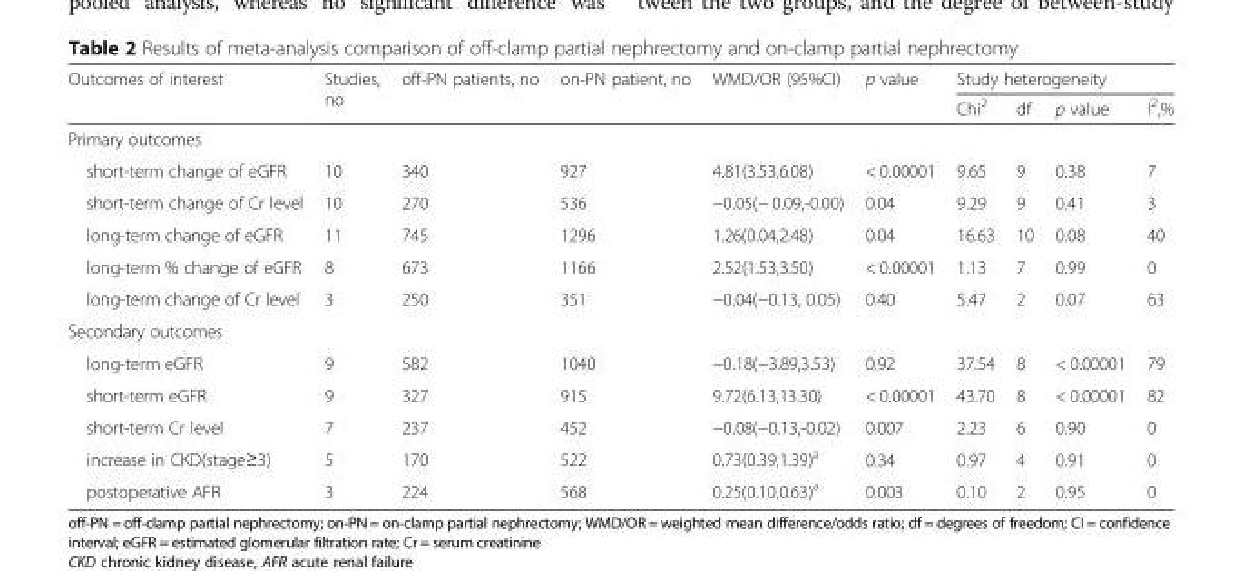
<table><thead><tr><td rowspan="2">Outcomes of interest</td><td rowspan="2">Studies, no</td><td rowspan="2">off-PN patients, no</td><td rowspan="2">on-PN patient, no</td><td rowspan="2">WMD/OR (95%CI)</td><td rowspan="2">p value</td><td colspan="4">Study heterogeneity</td></tr><tr><td>Chi<sup>2</sup></td><td>df</td><td>p value</td><td>I<sup>2</sup>,%</td></tr></thead><tbody><tr><td colspan="10">Primary outcomes</td></tr><tr><td>short-term change of eGFR</td><td>10</td><td>340</td><td>927</td><td>4.81(3.53,6.08)</td><td>&lt; 0.00001</td><td>9.65</td><td>9</td><td>0.38</td><td>7</td></tr><tr><td>short-term change of Cr level</td><td>10</td><td>270</td><td>536</td><td>−0.05(− 0.09,-0.00)</td><td>0.04</td><td>9.29</td><td>9</td><td>0.41</td><td>3</td></tr><tr><td>long-term change of eGFR</td><td>11</td><td>745</td><td>1296</td><td>1.26(0.04,2.48)</td><td>0.04</td><td>16.63</td><td>10</td><td>0.08</td><td>40</td></tr><tr><td>long-term % change of eGFR</td><td>8</td><td>673</td><td>1166</td><td>2.52(1.53,3.50)</td><td>&lt; 0.00001</td><td>1.13</td><td>7</td><td>0.99</td><td>0</td></tr><tr><td>long-term change of Cr level</td><td>3</td><td>250</td><td>351</td><td>−0.04(−0.13, 0.05)</td><td>0.40</td><td>5.47</td><td>2</td><td>0.07</td><td>63</td></tr><tr><td colspan="10">Secondary outcomes</td></tr><tr><td>long-term eGFR</td><td>9</td><td>582</td><td>1040</td><td>−0.18(−3.89,3.53)</td><td>0.92</td><td>37.54</td><td>8</td><td>&lt; 0.00001</td><td>79</td></tr><tr><td>short-term eGFR</td><td>9</td><td>327</td><td>915</td><td>9.72(6.13,13.30)</td><td>&lt; 0.00001</td><td>43.70</td><td>8</td><td>&lt; 0.00001</td><td>82</td></tr><tr><td>short-term Cr level</td><td>7</td><td>237</td><td>452</td><td>−0.08(−0.13,-0.02)</td><td>0.007</td><td>2.23</td><td>6</td><td>0.90</td><td>0</td></tr><tr><td>increase in CKD(stage≥3)</td><td>5</td><td>170</td><td>522</td><td>0.73(0.39,1.39)<sup>a</sup></td><td>0.34</td><td>0.97</td><td>4</td><td>0.91</td><td>0</td></tr><tr><td>postoperative AFR</td><td>3</td><td>224</td><td>568</td><td>0.25(0.10,0.63)<sup>a</sup></td><td>0.003</td><td>0.10</td><td>2</td><td>0.95</td><td>0</td></tr></tbody></table>